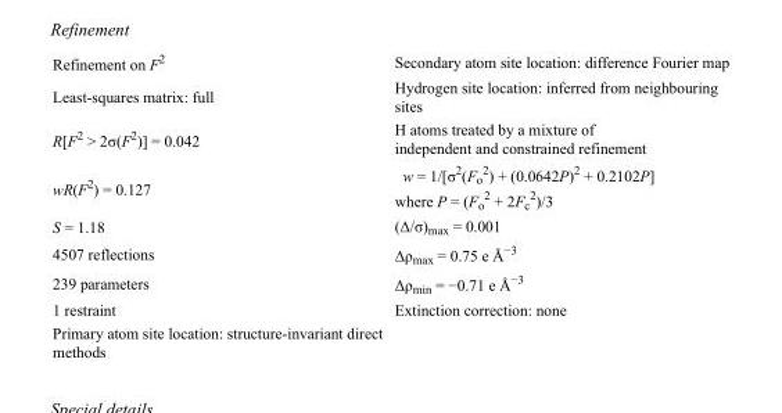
<table><tbody><tr><td>Refinement on F<sup>2</sup></td><td>Secondary atom site location: difference Fourier map</td></tr><tr><td>Least-squares matrix: full</td><td>Hydrogen site location: inferred from neighbouring sites</td></tr><tr><td>R[F<sup>2</sup> &gt; 2σ(F<sup>2</sup>)] = 0.042</td><td>H atoms treated by a mixture of independent and constrained refinement</td></tr><tr><td>wR(F<sup>2</sup>) = 0.127</td><td>w = 1/[σ<sup>2</sup>(F<sub>o</sub> <sup>2</sup>) + (0.0642P)<sup>2</sup> + 0.2102P] where P = (F<sub>o</sub> <sup>2</sup> + 2F<sub>c</sub> <sup>2</sup>)/3</td></tr><tr><td>S = 1.18</td><td>(Δ/σ)<sub>max</sub> = 0.001</td></tr><tr><td>4507 reflections</td><td>Δρ<sub>max</sub> = 0.75 e Å<sup>−3</sup></td></tr><tr><td>239 parameters</td><td>Δρ<sub>min</sub> = −0.71 e Å<sup>−3</sup></td></tr><tr><td>1 restraint</td><td>Extinction correction: none</td></tr><tr><td>Primary atom site location: structure-invariant direct methods</td><td></td></tr></tbody></table>